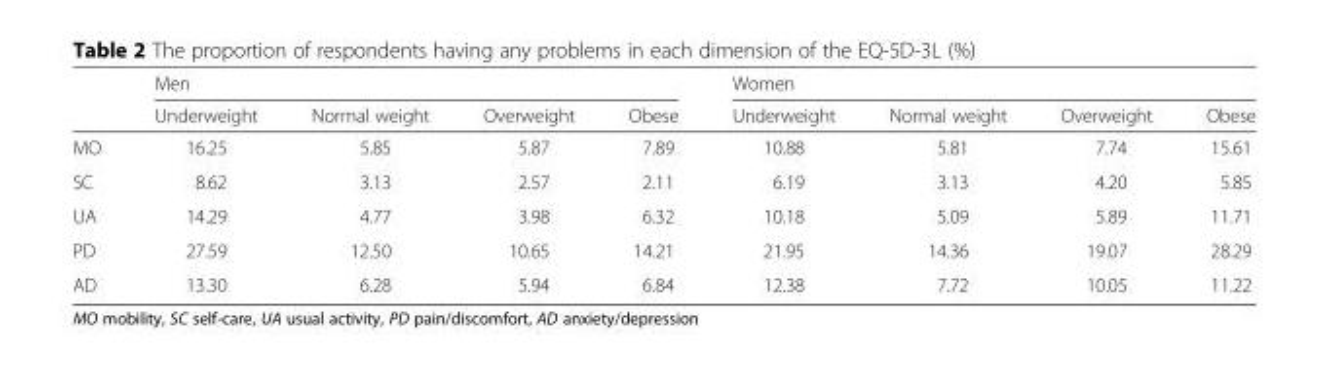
<table><thead><tr><td rowspan="2"></td><td colspan="4">Men</td><td colspan="4">Women</td></tr><tr><td>Underweight</td><td>Normal weight</td><td>Overweight</td><td>Obese</td><td>Underweight</td><td>Normal weight</td><td>Overweight</td><td>Obese</td></tr></thead><tbody><tr><td>MO</td><td>16.25</td><td>5.85</td><td>5.87</td><td>7.89</td><td>10.88</td><td>5.81</td><td>7.74</td><td>15.61</td></tr><tr><td>SC</td><td>8.62</td><td>3.13</td><td>2.57</td><td>2.11</td><td>6.19</td><td>3.13</td><td>4.20</td><td>5.85</td></tr><tr><td>UA</td><td>14.29</td><td>4.77</td><td>3.98</td><td>6.32</td><td>10.18</td><td>5.09</td><td>5.89</td><td>11.71</td></tr><tr><td>PD</td><td>27.59</td><td>12.50</td><td>10.65</td><td>14.21</td><td>21.95</td><td>14.36</td><td>19.07</td><td>28.29</td></tr><tr><td>AD</td><td>13.30</td><td>6.28</td><td>5.94</td><td>6.84</td><td>12.38</td><td>7.72</td><td>10.05</td><td>11.22</td></tr></tbody></table>